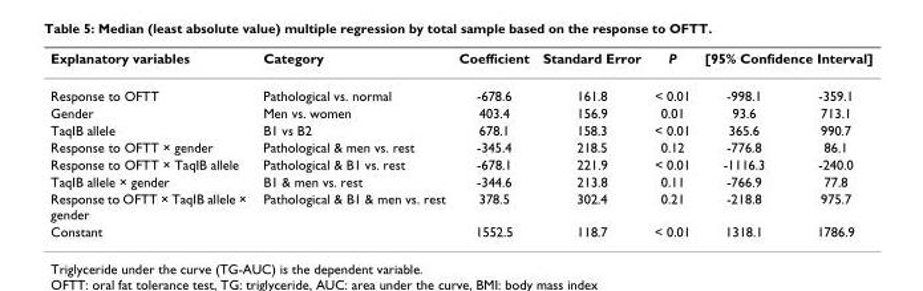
<table><thead><tr><td rowspan="2">Explanatory variables Response to OFTT</td><td rowspan="2">Category Pathological vs. normal</td><td rowspan="2">Coefficient -678.6</td><td rowspan="2">Standard Error 161.8</td><td rowspan="2">P &lt; 0.01</td><td colspan="2">[95% Confidence Interval]</td></tr><tr><td>-998.1</td><td>-359.1</td></tr></thead><tbody><tr><td>Gender</td><td>Men vs. women</td><td>403.4</td><td>156.9</td><td>0.01</td><td>93.6</td><td>713.1</td></tr><tr><td>TaqIB allele</td><td>B1 vs B2</td><td>678.1</td><td>158.3</td><td>&lt; 0.01</td><td>365.6</td><td>990.7</td></tr><tr><td>Response to OFTT × gender</td><td>Pathological &amp; men vs. rest</td><td>-345.4</td><td>218.5</td><td>0.12</td><td>-776.8</td><td>86.1</td></tr><tr><td>Response to OFTT × TaqIB allele</td><td>Pathological &amp; B1 vs. rest</td><td>-678.1</td><td>221.9</td><td>&lt; 0.01</td><td>-1116.3</td><td>-240.0</td></tr><tr><td>TaqIB allele × gender</td><td>B1 &amp; men vs. rest</td><td>-344.6</td><td>213.8</td><td>0.11</td><td>-766.9</td><td>77.8</td></tr><tr><td>Response to OFTT × TaqIB allele × gender</td><td>Pathological &amp; B1 &amp; men vs. rest</td><td>378.5</td><td>302.4</td><td>0.21</td><td>-218.8</td><td>975.7</td></tr><tr><td>Constant</td><td></td><td>1552.5</td><td>118.7</td><td>&lt; 0.01</td><td>1318.1</td><td>1786.9</td></tr></tbody></table>